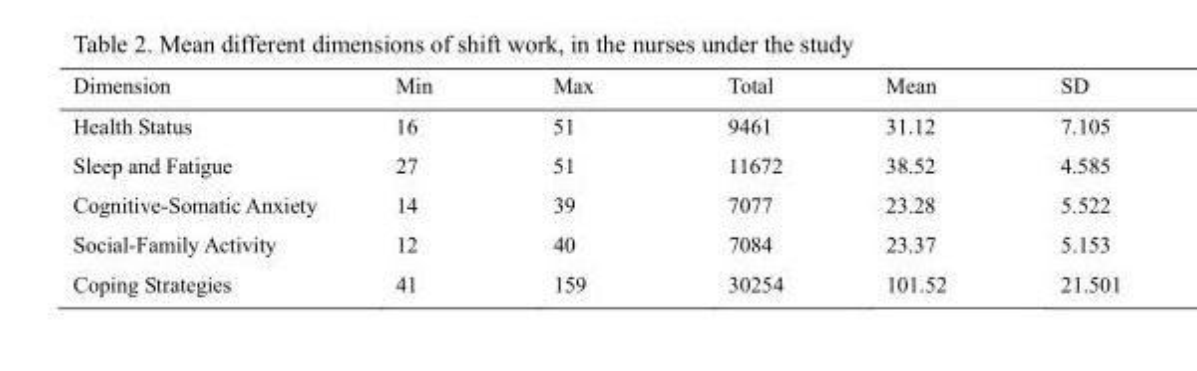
<table><thead><tr><td>Dimension</td><td>Min</td><td>Max</td><td>Total</td><td>Mean</td><td>SD</td></tr></thead><tbody><tr><td>Health Status</td><td>16</td><td>51</td><td>9461</td><td>31.12</td><td>7.105</td></tr><tr><td>Sleep and Fatigue</td><td>27</td><td>51</td><td>11672</td><td>38.52</td><td>4.585</td></tr><tr><td>Cognitive-Somatic Anxiety</td><td>14</td><td>39</td><td>7077</td><td>23.28</td><td>5.522</td></tr><tr><td>Social-Family Activity</td><td>12</td><td>40</td><td>7084</td><td>23.37</td><td>5.153</td></tr><tr><td>Coping Strategies</td><td>41</td><td>159</td><td>30254</td><td>101.52</td><td>21.501</td></tr></tbody></table>